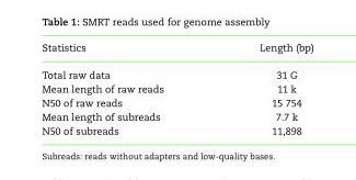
<table><thead><tr><td>Statistics</td><td>Length (bp)</td></tr></thead><tbody><tr><td>Total raw data</td><td>31 G</td></tr><tr><td>Mean length of raw reads</td><td>11 k</td></tr><tr><td>N50 of raw reads</td><td>15 754</td></tr><tr><td>Mean length of subreads</td><td>7.7 k</td></tr><tr><td>N50 of subreads</td><td>11,898</td></tr></tbody></table>